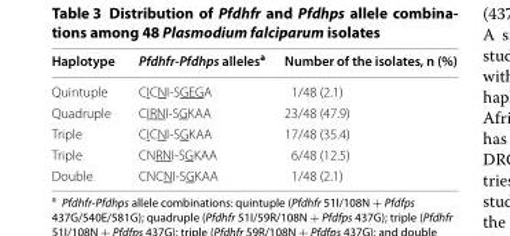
<table><thead><tr><td>Haplotype</td><td>Pfdhfr-Pfdhps alleles<sup>a</sup></td><td>Number of the isolates, n (%)</td></tr></thead><tbody><tr><td>Quintuple</td><td>CICNI‑SGEGA</td><td>1/48 (2.1)</td></tr><tr><td>Quadruple</td><td>CIRNI‑SGKAA</td><td>23/48 (47.9)</td></tr><tr><td>Triple</td><td>CICNI‑SGKAA</td><td>17/48 (35.4)</td></tr><tr><td>Triple</td><td>CNRNI‑SGKAA</td><td>6/48 (12.5)</td></tr><tr><td>Double</td><td>CNCNI‑SGKAA</td><td>1/48 (2.1)</td></tr></tbody></table>